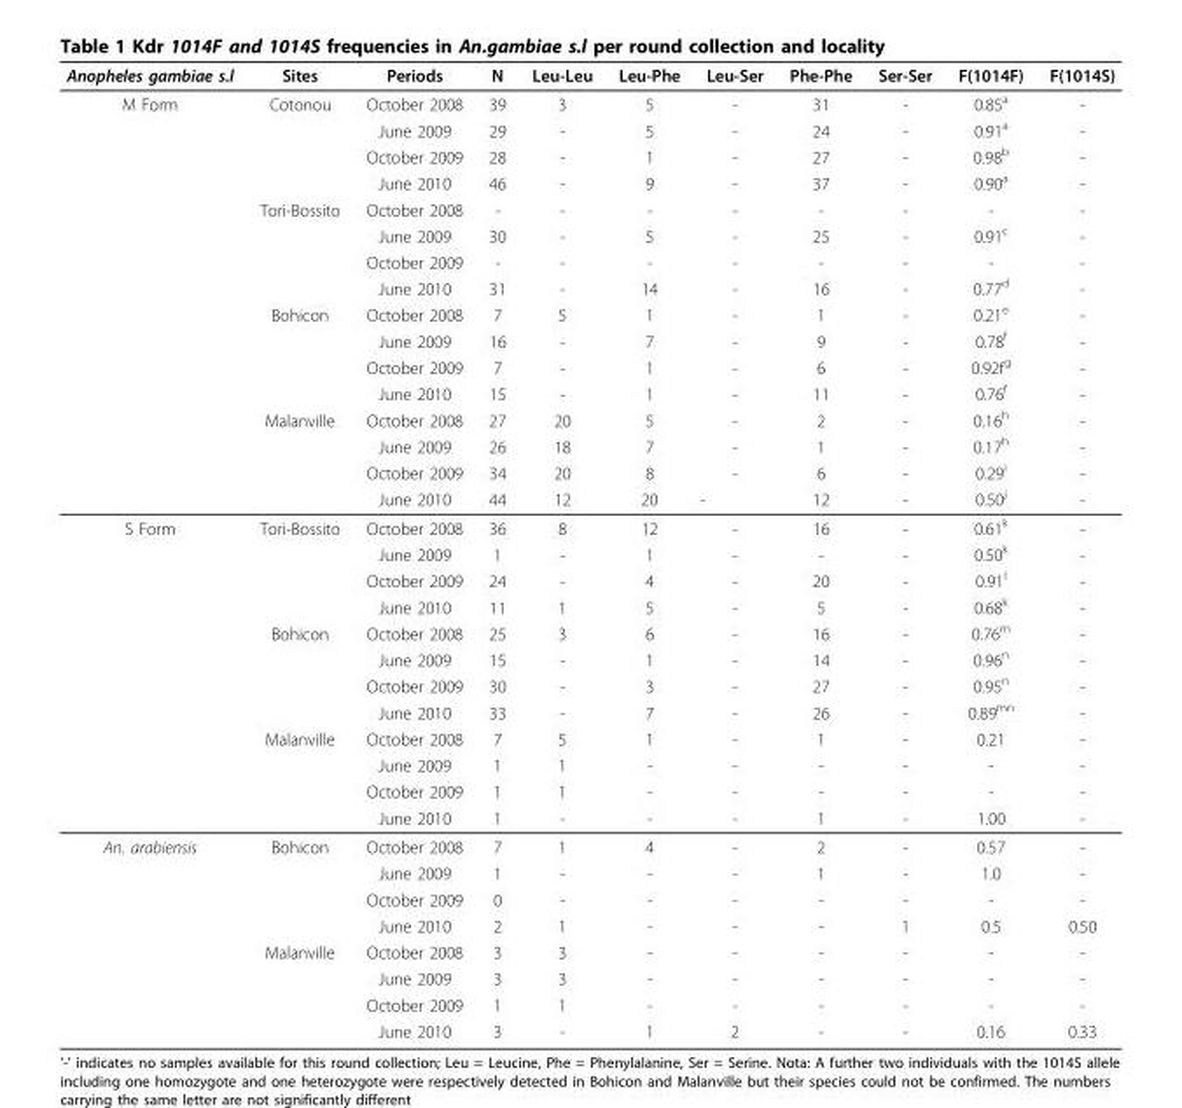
<table><thead><tr><td>Anopheles gambiae s.l</td><td>Sites</td><td>Periods</td><td>N</td><td>Leu-Leu</td><td>Leu-Phe</td><td>Leu-Ser</td><td>Phe-Phe</td><td>Ser-Ser</td><td>F(1014F)</td><td>F(1014S)</td></tr></thead><tbody><tr><td rowspan="16">M Form</td><td>Cotonou</td><td>October 2008</td><td>39</td><td>3</td><td>5</td><td>-</td><td>31</td><td>-</td><td>0.85<sup>a</sup></td><td>-</td></tr><tr><td></td><td>June 2009</td><td>29</td><td>-</td><td>5</td><td>-</td><td>24</td><td>-</td><td>0.91<sup>a</sup></td><td>-</td></tr><tr><td></td><td>October 2009</td><td>28</td><td>-</td><td>1</td><td>-</td><td>27</td><td>-</td><td>0.98<sup>b</sup></td><td>-</td></tr><tr><td></td><td>June 2010</td><td>46</td><td>-</td><td>9</td><td>-</td><td>37</td><td>-</td><td>0.90<sup>a</sup></td><td>-</td></tr><tr><td>Tori-Bossito</td><td>October 2008</td><td>-</td><td>-</td><td>-</td><td>-</td><td>-</td><td>-</td><td>-</td><td>-</td></tr><tr><td></td><td>June 2009</td><td>30</td><td>-</td><td>5</td><td>-</td><td>25</td><td>-</td><td>0.91<sup>c</sup></td><td>-</td></tr><tr><td></td><td>October 2009</td><td>-</td><td>-</td><td>-</td><td>-</td><td>-</td><td>-</td><td>-</td><td>-</td></tr><tr><td></td><td>June 2010</td><td>31</td><td>-</td><td>14</td><td>-</td><td>16</td><td>-</td><td>0.77<sup>d</sup></td><td>-</td></tr><tr><td>Bohicon</td><td>October 2008</td><td>7</td><td>5</td><td>1</td><td>-</td><td>1</td><td>-</td><td>0.21<sup>e</sup></td><td>-</td></tr><tr><td></td><td>June 2009</td><td>16</td><td>-</td><td>7</td><td>-</td><td>9</td><td>-</td><td>0.78<sup>f</sup></td><td>-</td></tr><tr><td></td><td>October 2009</td><td>7</td><td>-</td><td>1</td><td>-</td><td>6</td><td>-</td><td>0.92f<sup>g</sup></td><td>-</td></tr><tr><td></td><td>June 2010</td><td>15</td><td>-</td><td>1</td><td>-</td><td>11</td><td>-</td><td>0.76<sup>f</sup></td><td>-</td></tr><tr><td>Malanville</td><td>October 2008</td><td>27</td><td>20</td><td>5</td><td>-</td><td>2</td><td>-</td><td>0.16<sup>h</sup></td><td>-</td></tr><tr><td></td><td>June 2009</td><td>26</td><td>18</td><td>7</td><td>-</td><td>1</td><td>-</td><td>0.17<sup>h</sup></td><td>-</td></tr><tr><td></td><td>October 2009</td><td>34</td><td>20</td><td>8</td><td>-</td><td>6</td><td>-</td><td>0.29<sup>i</sup></td><td>-</td></tr><tr><td></td><td>June 2010</td><td>44</td><td>12</td><td>20</td><td>-</td><td>12</td><td>-</td><td>0.50<sup>j</sup></td><td>-</td></tr><tr><td rowspan="12">S Form</td><td>Tori-Bossito</td><td>October 2008</td><td>36</td><td>8</td><td>12</td><td>-</td><td>16</td><td>-</td><td>0.61<sup>k</sup></td><td>-</td></tr><tr><td></td><td>June 2009</td><td>1</td><td>-</td><td>1</td><td>-</td><td>-</td><td>-</td><td>0.50<sup>k</sup></td><td>-</td></tr><tr><td></td><td>October 2009</td><td>24</td><td>-</td><td>4</td><td>-</td><td>20</td><td>-</td><td>0.91<sup>l</sup></td><td>-</td></tr><tr><td></td><td>June 2010</td><td>11</td><td>1</td><td>5</td><td>-</td><td>5</td><td>-</td><td>0.68<sup>k</sup></td><td>-</td></tr><tr><td>Bohicon</td><td>October 2008</td><td>25</td><td>3</td><td>6</td><td>-</td><td>16</td><td>-</td><td>0.76<sup>m</sup></td><td>-</td></tr><tr><td></td><td>June 2009</td><td>15</td><td>-</td><td>1</td><td>-</td><td>14</td><td>-</td><td>0.96<sup>n</sup></td><td>-</td></tr><tr><td></td><td>October 2009</td><td>30</td><td>-</td><td>3</td><td>-</td><td>27</td><td>-</td><td>0.95<sup>n</sup></td><td>-</td></tr><tr><td></td><td>June 2010</td><td>33</td><td>-</td><td>7</td><td>-</td><td>26</td><td>-</td><td>0.89<sup>mn</sup></td><td>-</td></tr><tr><td>Malanville</td><td>October 2008</td><td>7</td><td>5</td><td>1</td><td>-</td><td>1</td><td>-</td><td>0.21</td><td>-</td></tr><tr><td></td><td>June 2009</td><td>1</td><td>1</td><td>-</td><td>-</td><td>-</td><td>-</td><td>-</td><td>-</td></tr><tr><td></td><td>October 2009</td><td>1</td><td>1</td><td>-</td><td>-</td><td>-</td><td>-</td><td>-</td><td>-</td></tr><tr><td></td><td>June 2010</td><td>1</td><td>-</td><td>-</td><td>-</td><td>1</td><td>-</td><td>1.00</td><td>-</td></tr><tr><td rowspan="8">An. arabiensis</td><td>Bohicon</td><td>October 2008</td><td>7</td><td>1</td><td>4</td><td>-</td><td>2</td><td>-</td><td>0.57</td><td>-</td></tr><tr><td></td><td>June 2009</td><td>1</td><td>-</td><td>-</td><td>-</td><td>1</td><td>-</td><td>1.0</td><td>-</td></tr><tr><td></td><td>October 2009</td><td>0</td><td>-</td><td>-</td><td>-</td><td>-</td><td>-</td><td>-</td><td>-</td></tr><tr><td></td><td>June 2010</td><td>2</td><td>1</td><td>-</td><td>-</td><td>-</td><td>1</td><td>0.5</td><td>0.50</td></tr><tr><td>Malanville</td><td>October 2008</td><td>3</td><td>3</td><td>-</td><td>-</td><td>-</td><td>-</td><td>-</td><td>-</td></tr><tr><td></td><td>June 2009</td><td>3</td><td>3</td><td>-</td><td>-</td><td>-</td><td>-</td><td>-</td><td>-</td></tr><tr><td></td><td>October 2009</td><td>1</td><td>1</td><td>-</td><td>-</td><td>-</td><td>-</td><td>-</td><td>-</td></tr><tr><td></td><td>June 2010</td><td>3</td><td>-</td><td>1</td><td>2</td><td>-</td><td>-</td><td>0.16</td><td>0.33</td></tr></tbody></table>